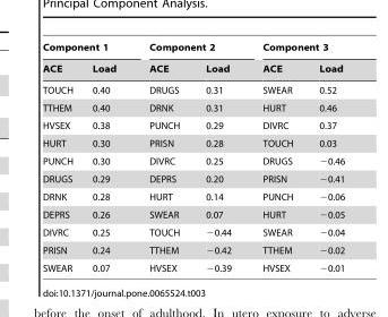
<table><thead><tr><td colspan="2">Component 1</td><td colspan="2">Component 2</td><td colspan="2">Component 3</td></tr><tr><td>ACE</td><td>Load</td><td>ACE</td><td>Load</td><td>ACE</td><td>Load</td></tr></thead><tbody><tr><td>TOUCH</td><td>0.40</td><td>DRUGS</td><td>0.31</td><td>SWEAR</td><td>0.52</td></tr><tr><td>TTHEM</td><td>0.40</td><td>DRNK</td><td>0.31</td><td>HURT</td><td>0.46</td></tr><tr><td>HVSEX</td><td>0.38</td><td>PUNCH</td><td>0.29</td><td>DIVRC</td><td>0.37</td></tr><tr><td>HURT</td><td>0.30</td><td>PRISN</td><td>0.28</td><td>TOUCH</td><td>0.03</td></tr><tr><td>PUNCH</td><td>0.30</td><td>DIVRC</td><td>0.25</td><td>DRUGS</td><td>−0.46</td></tr><tr><td>DRUGS</td><td>0.29</td><td>DEPRS</td><td>0.20</td><td>PRISN</td><td>−0.41</td></tr><tr><td>DRNK</td><td>0.28</td><td>HURT</td><td>0.14</td><td>PUNCH</td><td>−0.06</td></tr><tr><td>DEPRS</td><td>0.26</td><td>SWEAR</td><td>0.07</td><td>HURT</td><td>−0.05</td></tr><tr><td>DIVRC</td><td>0.25</td><td>TOUCH</td><td>−0.44</td><td>SWEAR</td><td>−0.04</td></tr><tr><td>PRISN</td><td>0.24</td><td>TTHEM</td><td>−0.42</td><td>TTHEM</td><td>−0.02</td></tr><tr><td>SWEAR</td><td>0.07</td><td>HVSEX</td><td>−0.39</td><td>HVSEX</td><td>−0.01</td></tr></tbody></table>